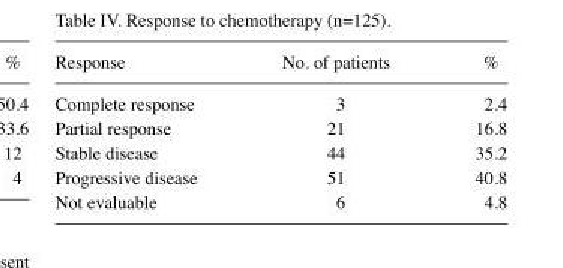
<table><thead><tr><td>Response</td><td>No. of patients</td><td>%</td></tr></thead><tbody><tr><td>Complete response</td><td>3</td><td>2.4</td></tr><tr><td>Partial response</td><td>21</td><td>16.8</td></tr><tr><td>Stable disease</td><td>44</td><td>35.2</td></tr><tr><td>Progressive disease</td><td>51</td><td>40.8</td></tr><tr><td>Not evaluable</td><td>6</td><td>4.8</td></tr></tbody></table>